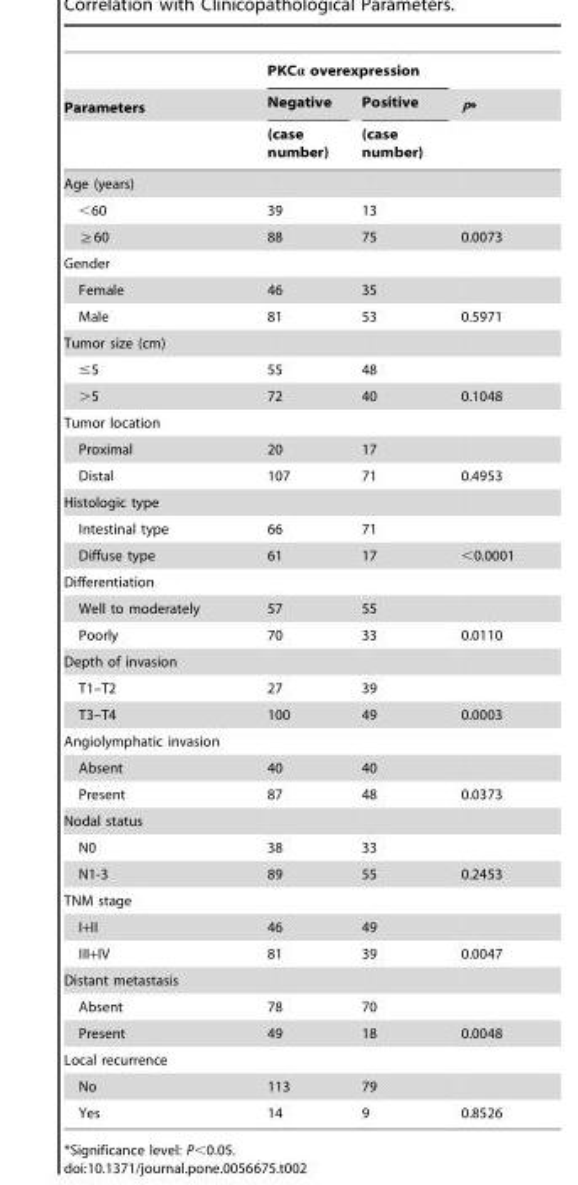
<table><thead><tr><td rowspan="3">Parameters</td><td colspan="2">PKCα overexpression</td><td rowspan="3">P*</td></tr><tr><td rowspan="2">Negative (case number)</td><td rowspan="2">Positive (case number)</td></tr><tr></tr></thead><tbody><tr><td colspan="4">Age (years)</td></tr><tr><td>&lt;60</td><td>39</td><td>13</td><td></td></tr><tr><td>≧60</td><td>88</td><td>75</td><td>0.0073</td></tr><tr><td colspan="4">Gender</td></tr><tr><td>Female</td><td>46</td><td>35</td><td></td></tr><tr><td>Male</td><td>81</td><td>53</td><td>0.5971</td></tr><tr><td colspan="4">Tumor size (cm)</td></tr><tr><td>≤5</td><td>55</td><td>48</td><td></td></tr><tr><td>&gt;5</td><td>72</td><td>40</td><td>0.1048</td></tr><tr><td colspan="4">Tumor location</td></tr><tr><td>Proximal</td><td>20</td><td>17</td><td></td></tr><tr><td>Distal</td><td>107</td><td>71</td><td>0.4953</td></tr><tr><td colspan="4">Histologic type</td></tr><tr><td>Intestinal type</td><td>66</td><td>71</td><td></td></tr><tr><td>Diffuse type</td><td>61</td><td>17</td><td>&lt;0.0001</td></tr><tr><td colspan="4">Differentiation</td></tr><tr><td>Well to moderately</td><td>57</td><td>55</td><td></td></tr><tr><td>Poorly</td><td>70</td><td>33</td><td>0.0110</td></tr><tr><td colspan="4">Depth of invasion</td></tr><tr><td>T1–T2</td><td>27</td><td>39</td><td></td></tr><tr><td>T3–T4</td><td>100</td><td>49</td><td>0.0003</td></tr><tr><td colspan="4">Angiolymphatic invasion</td></tr><tr><td>Absent</td><td>40</td><td>40</td><td></td></tr><tr><td>Present</td><td>87</td><td>48</td><td>0.0373</td></tr><tr><td colspan="4">Nodal status</td></tr><tr><td>N0</td><td>38</td><td>33</td><td></td></tr><tr><td>N1-3</td><td>89</td><td>55</td><td>0.2453</td></tr><tr><td colspan="4">TNM stage</td></tr><tr><td>I+II</td><td>46</td><td>49</td><td></td></tr><tr><td>III+IV</td><td>81</td><td>39</td><td>0.0047</td></tr><tr><td colspan="4">Distant metastasis</td></tr><tr><td>Absent</td><td>78</td><td>70</td><td></td></tr><tr><td>Present</td><td>49</td><td>18</td><td>0.0048</td></tr><tr><td colspan="4">Local recurrence</td></tr><tr><td>No</td><td>113</td><td>79</td><td></td></tr><tr><td>Yes</td><td>14</td><td>9</td><td>0.8526</td></tr></tbody></table>